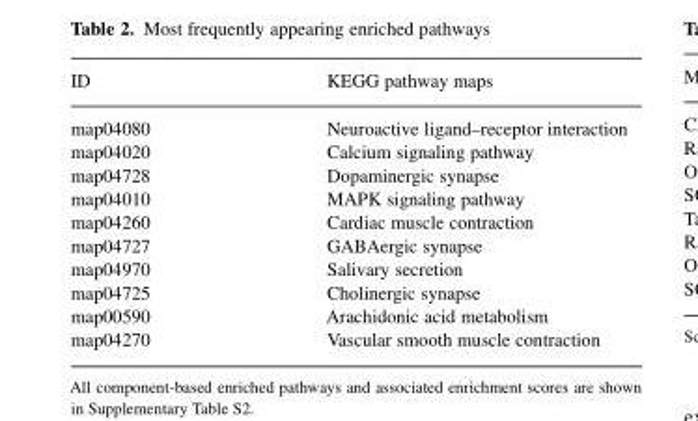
<table><thead><tr><td>ID</td><td>KEGG pathway maps</td></tr></thead><tbody><tr><td>map04080</td><td>Neuroactive ligand–receptor interaction</td></tr><tr><td>map04020</td><td>Calcium signaling pathway</td></tr><tr><td>map04728</td><td>Dopaminergic synapse</td></tr><tr><td>map04010</td><td>MAPK signaling pathway</td></tr><tr><td>map04260</td><td>Cardiac muscle contraction</td></tr><tr><td>map04727</td><td>GABAergic synapse</td></tr><tr><td>map04970</td><td>Salivary secretion</td></tr><tr><td>map04725</td><td>Cholinergic synapse</td></tr><tr><td>map00590</td><td>Arachidonic acid metabolism</td></tr><tr><td>map04270</td><td>Vascular smooth muscle contraction</td></tr></tbody></table>